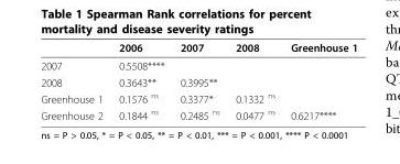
<table><thead><tr><td></td><td>2006</td><td>2007</td><td>2008</td><td>Greenhouse 1</td></tr></thead><tbody><tr><td>2007</td><td>0.5508****</td><td></td><td></td><td></td></tr><tr><td>2008</td><td>0.3643**</td><td>0.3995**</td><td></td><td></td></tr><tr><td>Greenhouse 1</td><td>0.1576 <sup>ns</sup></td><td>0.3377*</td><td>0.1332 <sup>ns</sup></td><td></td></tr><tr><td>Greenhouse 2</td><td>0.1844 <sup>ns</sup></td><td>0.2485 <sup>ns</sup></td><td>0.0477 <sup>ns</sup></td><td>0.6217****</td></tr></tbody></table>